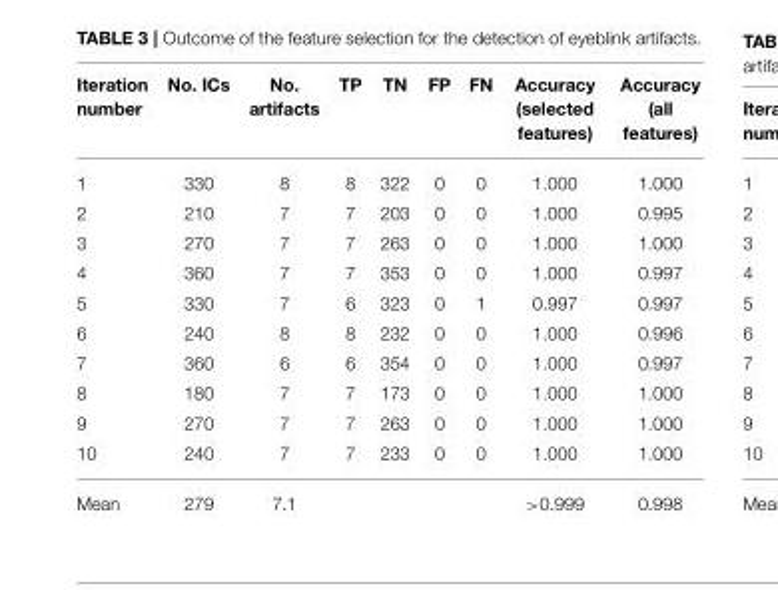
<table><thead><tr><td>Iteration number</td><td>No. ICs</td><td>No. artifacts</td><td>TP</td><td>TN</td><td>FP</td><td>FN</td><td>Accuracy (selected features)</td><td>Accuracy (all features)</td></tr></thead><tbody><tr><td>1</td><td>330</td><td>8</td><td>8</td><td>322</td><td>0</td><td>0</td><td>1.000</td><td>1.000</td></tr><tr><td>2</td><td>210</td><td>7</td><td>7</td><td>203</td><td>0</td><td>0</td><td>1.000</td><td>0.995</td></tr><tr><td>3</td><td>270</td><td>7</td><td>7</td><td>263</td><td>0</td><td>0</td><td>1.000</td><td>1.000</td></tr><tr><td>4</td><td>360</td><td>7</td><td>7</td><td>353</td><td>0</td><td>0</td><td>1.000</td><td>0.997</td></tr><tr><td>5</td><td>330</td><td>7</td><td>6</td><td>323</td><td>0</td><td>1</td><td>0.997</td><td>0.997</td></tr><tr><td>6</td><td>240</td><td>8</td><td>8</td><td>232</td><td>0</td><td>0</td><td>1.000</td><td>0.996</td></tr><tr><td>7</td><td>360</td><td>6</td><td>6</td><td>354</td><td>0</td><td>0</td><td>1.000</td><td>0.997</td></tr><tr><td>8</td><td>180</td><td>7</td><td>7</td><td>173</td><td>0</td><td>0</td><td>1.000</td><td>1.000</td></tr><tr><td>9</td><td>270</td><td>7</td><td>7</td><td>263</td><td>0</td><td>0</td><td>1.000</td><td>1.000</td></tr><tr><td>10</td><td>240</td><td>7</td><td>7</td><td>233</td><td>0</td><td>0</td><td>1.000</td><td>1.000</td></tr><tr><td>Mean</td><td>279</td><td>7.1</td><td></td><td></td><td></td><td></td><td>&gt;0.999</td><td>0.998</td></tr></tbody></table>